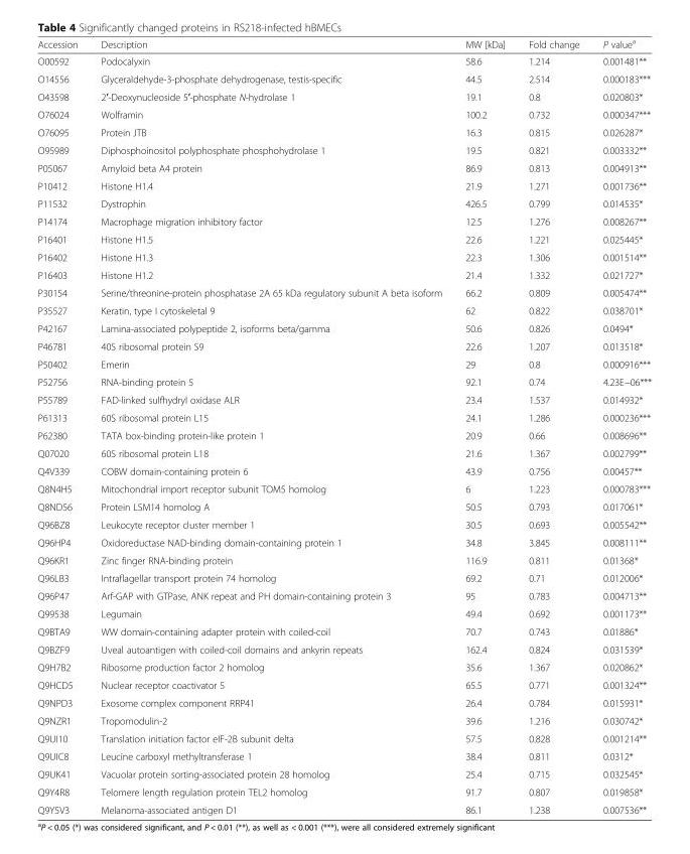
<table><thead><tr><td>Accession</td><td>Description</td><td>MW [kDa]</td><td>Fold change</td><td>P value<sup>a</sup></td></tr></thead><tbody><tr><td>O00592</td><td>Podocalyxin</td><td>58.6</td><td>1.214</td><td>0.001481**</td></tr><tr><td>O14556</td><td>Glyceraldehyde-3-phosphate dehydrogenase, testis-specific</td><td>44.5</td><td>2.514</td><td>0.000183***</td></tr><tr><td>O43598</td><td>2′-Deoxynucleoside 5′-phosphate N-hydrolase 1</td><td>19.1</td><td>0.8</td><td>0.020803*</td></tr><tr><td>O76024</td><td>Wolframin</td><td>100.2</td><td>0.732</td><td>0.000347***</td></tr><tr><td>O76095</td><td>Protein JTB</td><td>16.3</td><td>0.815</td><td>0.026287*</td></tr><tr><td>O95989</td><td>Diphosphoinositol polyphosphate phosphohydrolase 1</td><td>19.5</td><td>0.821</td><td>0.003332**</td></tr><tr><td>P05067</td><td>Amyloid beta A4 protein</td><td>86.9</td><td>0.813</td><td>0.004913**</td></tr><tr><td>P10412</td><td>Histone H1.4</td><td>21.9</td><td>1.271</td><td>0.001736**</td></tr><tr><td>P11532</td><td>Dystrophin</td><td>426.5</td><td>0.799</td><td>0.014535*</td></tr><tr><td>P14174</td><td>Macrophage migration inhibitory factor</td><td>12.5</td><td>1.276</td><td>0.008267**</td></tr><tr><td>P16401</td><td>Histone H1.5</td><td>22.6</td><td>1.221</td><td>0.025445*</td></tr><tr><td>P16402</td><td>Histone H1.3</td><td>22.3</td><td>1.306</td><td>0.001514**</td></tr><tr><td>P16403</td><td>Histone H1.2</td><td>21.4</td><td>1.332</td><td>0.021727*</td></tr><tr><td>P30154</td><td>Serine/threonine-protein phosphatase 2A 65 kDa regulatory subunit A beta isoform</td><td>66.2</td><td>0.809</td><td>0.005474**</td></tr><tr><td>P35527</td><td>Keratin, type I cytoskeletal 9</td><td>62</td><td>0.822</td><td>0.038701*</td></tr><tr><td>P42167</td><td>Lamina-associated polypeptide 2, isoforms beta/gamma</td><td>50.6</td><td>0.826</td><td>0.0494*</td></tr><tr><td>P46781</td><td>40S ribosomal protein S9</td><td>22.6</td><td>1.207</td><td>0.013518*</td></tr><tr><td>P50402</td><td>Emerin</td><td>29</td><td>0.8</td><td>0.000916***</td></tr><tr><td>P52756</td><td>RNA-binding protein 5</td><td>92.1</td><td>0.74</td><td>4.23E−06***</td></tr><tr><td>P55789</td><td>FAD-linked sulfhydryl oxidase ALR</td><td>23.4</td><td>1.537</td><td>0.014932*</td></tr><tr><td>P61313</td><td>60S ribosomal protein L15</td><td>24.1</td><td>1.286</td><td>0.000236***</td></tr><tr><td>P62380</td><td>TATA box-binding protein-like protein 1</td><td>20.9</td><td>0.66</td><td>0.008696**</td></tr><tr><td>Q07020</td><td>60S ribosomal protein L18</td><td>21.6</td><td>1.367</td><td>0.002799**</td></tr><tr><td>Q4V339</td><td>COBW domain-containing protein 6</td><td>43.9</td><td>0.756</td><td>0.00457**</td></tr><tr><td>Q8N4H5</td><td>Mitochondrial import receptor subunit TOM5 homolog</td><td>6</td><td>1.223</td><td>0.000783***</td></tr><tr><td>Q8ND56</td><td>Protein LSM14 homolog A</td><td>50.5</td><td>0.793</td><td>0.017061*</td></tr><tr><td>Q96BZ8</td><td>Leukocyte receptor cluster member 1</td><td>30.5</td><td>0.693</td><td>0.005542**</td></tr><tr><td>Q96HP4</td><td>Oxidoreductase NAD-binding domain-containing protein 1</td><td>34.8</td><td>3.845</td><td>0.008111**</td></tr><tr><td>Q96KR1</td><td>Zinc finger RNA-binding protein</td><td>116.9</td><td>0.811</td><td>0.01368*</td></tr><tr><td>Q96LB3</td><td>Intraflagellar transport protein 74 homolog</td><td>69.2</td><td>0.71</td><td>0.012006*</td></tr><tr><td>Q96P47</td><td>Arf-GAP with GTPase, ANK repeat and PH domain-containing protein 3</td><td>95</td><td>0.783</td><td>0.004713**</td></tr><tr><td>Q99538</td><td>Legumain</td><td>49.4</td><td>0.692</td><td>0.001173**</td></tr><tr><td>Q9BTA9</td><td>WW domain-containing adapter protein with coiled-coil</td><td>70.7</td><td>0.743</td><td>0.01886*</td></tr><tr><td>Q9BZF9</td><td>Uveal autoantigen with coiled-coil domains and ankyrin repeats</td><td>162.4</td><td>0.824</td><td>0.031539*</td></tr><tr><td>Q9H7B2</td><td>Ribosome production factor 2 homolog</td><td>35.6</td><td>1.367</td><td>0.020862*</td></tr><tr><td>Q9HCD5</td><td>Nuclear receptor coactivator 5</td><td>65.5</td><td>0.771</td><td>0.001324**</td></tr><tr><td>Q9NPD3</td><td>Exosome complex component RRP41</td><td>26.4</td><td>0.784</td><td>0.015931*</td></tr><tr><td>Q9NZR1</td><td>Tropomodulin-2</td><td>39.6</td><td>1.216</td><td>0.030742*</td></tr><tr><td>Q9UI10</td><td>Translation initiation factor eIF-2B subunit delta</td><td>57.5</td><td>0.828</td><td>0.001214**</td></tr><tr><td>Q9UIC8</td><td>Leucine carboxyl methyltransferase 1</td><td>38.4</td><td>0.811</td><td>0.0312*</td></tr><tr><td>Q9UK41</td><td>Vacuolar protein sorting-associated protein 28 homolog</td><td>25.4</td><td>0.715</td><td>0.032545*</td></tr><tr><td>Q9Y4R8</td><td>Telomere length regulation protein TEL2 homolog</td><td>91.7</td><td>0.807</td><td>0.019858*</td></tr><tr><td>Q9Y5V3</td><td>Melanoma-associated antigen D1</td><td>86.1</td><td>1.238</td><td>0.007536**</td></tr></tbody></table>